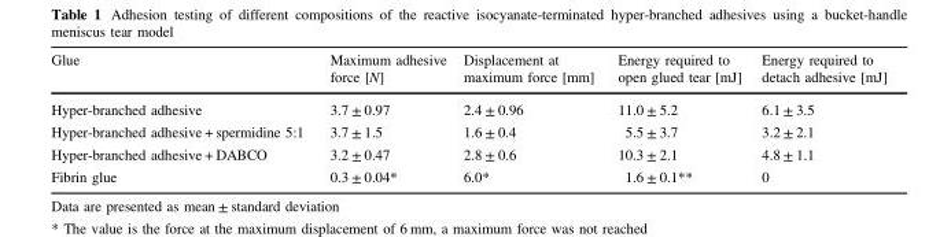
<table><thead><tr><td>Glue</td><td>Maximum adhesive force [N]</td><td>Displacement at maximum force [mm]</td><td>Energy required to open glued tear [mJ]</td><td>Energy required to detach adhesive [mJ]</td></tr></thead><tbody><tr><td>Hyper-branched adhesive</td><td>3.7 ± 0.97</td><td>2.4 ± 0.96</td><td>11.0 ± 5.2</td><td>6.1 ± 3.5</td></tr><tr><td>Hyper-branched adhesive + spermidine 5:1</td><td>3.7 ± 1.5</td><td>1.6 ± 0.4</td><td>5.5 ± 3.7</td><td>3.2 ± 2.1</td></tr><tr><td>Hyper-branched adhesive + DABCO</td><td>3.2 ± 0.47</td><td>2.8 ± 0.6</td><td>10.3 ± 2.1</td><td>4.8 ± 1.1</td></tr><tr><td>Fibrin glue</td><td>0.3 ± 0.04*</td><td>6.0*</td><td>1.6 ± 0.1**</td><td>0</td></tr></tbody></table>